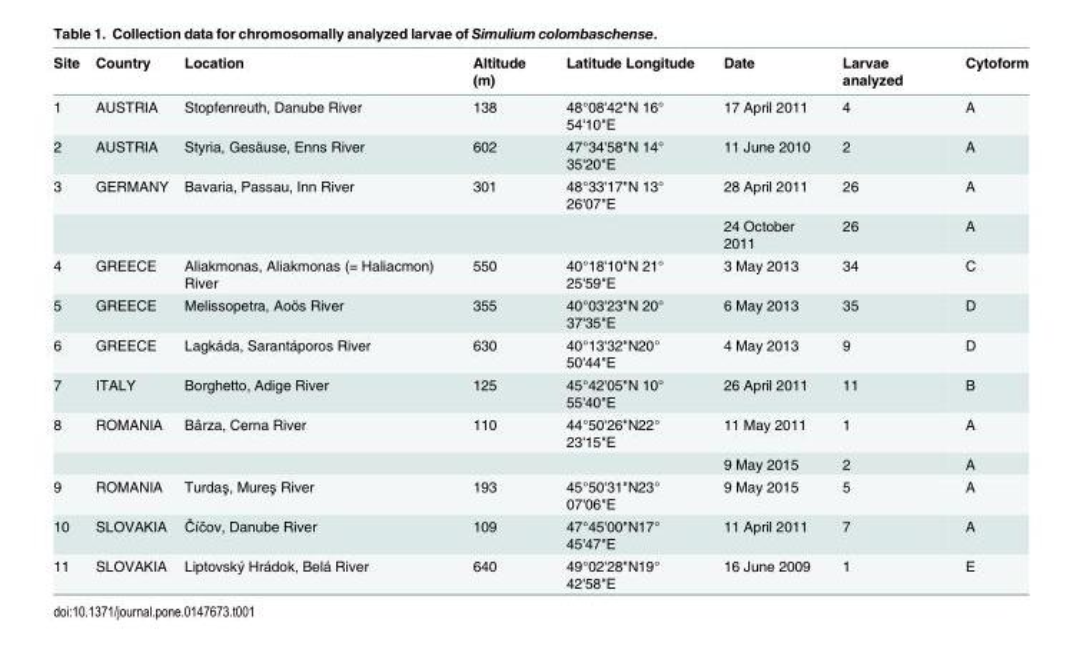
<table><thead><tr><td>Site</td><td>Country</td><td>Location</td><td>Altitude (m)</td><td>Latitude Longitude</td><td>Date</td><td>Larvae analyzed</td><td>Cytoform</td></tr></thead><tbody><tr><td>1</td><td>AUSTRIA</td><td>Stopfenreuth, Danube River</td><td>138</td><td>48°08&#x27;42&quot;N 16° 54&#x27;10&quot;E</td><td>17 April 2011</td><td>4</td><td>A</td></tr><tr><td>2</td><td>AUSTRIA</td><td>Styria, Gesäuse, Enns River</td><td>602</td><td>47°34&#x27;58&quot;N 14° 35&#x27;20&quot;E</td><td>11 June 2010</td><td>2</td><td>A</td></tr><tr><td rowspan="2">3</td><td>GERMANY</td><td>Bavaria, Passau, Inn River</td><td>301</td><td>48°33&#x27;17&quot;N 13° 26&#x27;07&quot;E</td><td>28 April 2011</td><td>26</td><td>A</td></tr><tr><td></td><td></td><td></td><td></td><td>24 October 2011</td><td>26</td><td>A</td></tr><tr><td>4</td><td>GREECE</td><td>Aliakmonas, Aliakmonas (= Haliacmon) River</td><td>550</td><td>40°18&#x27;10&quot;N 21° 25&#x27;59&quot;E</td><td>3 May 2013</td><td>34</td><td>C</td></tr><tr><td>5</td><td>GREECE</td><td>Melissopetra, Aoös River</td><td>355</td><td>40°03&#x27;23&quot;N 20° 37&#x27;35&quot;E</td><td>6 May 2013</td><td>35</td><td>D</td></tr><tr><td>6</td><td>GREECE</td><td>Lagkáda, Sarantáporos River</td><td>630</td><td>40°13&#x27;32&quot;N20° 50&#x27;44&quot;E</td><td>4 May 2013</td><td>9</td><td>D</td></tr><tr><td>7</td><td>ITALY</td><td>Borghetto, Adige River</td><td>125</td><td>45°42&#x27;05&quot;N 10° 55&#x27;40&quot;E</td><td>26 April 2011</td><td>11</td><td>B</td></tr><tr><td rowspan="2">8</td><td>ROMANIA</td><td>Bârza, Cerna River</td><td>110</td><td>44°50&#x27;26&quot;N22° 23&#x27;15&quot;E</td><td>11 May 2011</td><td>1</td><td>A</td></tr><tr><td></td><td></td><td></td><td></td><td>9 May 2015</td><td>2</td><td>A</td></tr><tr><td>9</td><td>ROMANIA</td><td>Turdaş, Mureş River</td><td>193</td><td>45°50&#x27;31&quot;N23° 07&#x27;06&quot;E</td><td>9 May 2015</td><td>5</td><td>A</td></tr><tr><td>10</td><td>SLOVAKIA</td><td>Číčov, Danube River</td><td>109</td><td>47°45&#x27;00&quot;N17° 45&#x27;47&quot;E</td><td>11 April 2011</td><td>7</td><td>A</td></tr><tr><td>11</td><td>SLOVAKIA</td><td>Liptovský Hrádok, Belá River</td><td>640</td><td>49°02&#x27;28&quot;N19° 42&#x27;58&quot;E</td><td>16 June 2009</td><td>1</td><td>E</td></tr></tbody></table>